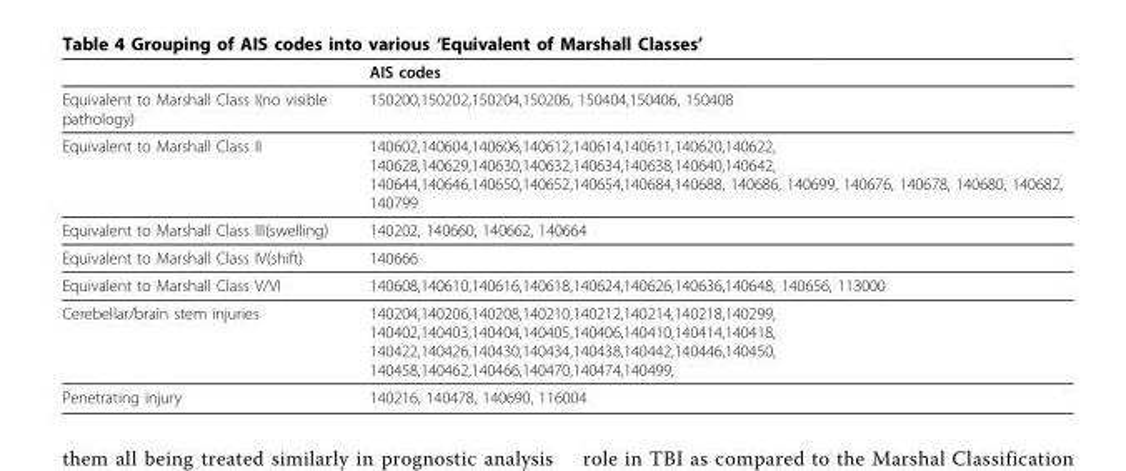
<table><thead><tr><td></td><td>AIS codes</td></tr></thead><tbody><tr><td>Equivalent to Marshall Class I(no visible pathology)</td><td>150200,150202,150204,150206, 150404,150406, 150408</td></tr><tr><td>Equivalent to Marshall Class II</td><td>140602,140604,140606,140612,140614,140611,140620,140622, 140628,140629,140630,140632,140634,140638,140640,140642, 140644,140646,140650,140652,140654,140684,140688, 140686, 140699, 140676, 140678, 140680, 140682, 140799</td></tr><tr><td>Equivalent to Marshall Class III(swelling)</td><td>140202, 140660, 140662, 140664</td></tr><tr><td>Equivalent to Marshall Class IV(shift)</td><td>140666</td></tr><tr><td>Equivalent to Marshall Class V/VI</td><td>140608,140610,140616,140618,140624,140626,140636,140648, 140656, 113000</td></tr><tr><td>Cerebellar/brain stem injuries</td><td>140204,140206,140208,140210,140212,140214,140218,140299, 140402,140403,140404,140405,140406,140410,140414,140418, 140422,140426,140430,140434,140438,140442,140446,140450, 140458,140462,140466,140470,140474,140499,</td></tr><tr><td>Penetrating injury</td><td>140216, 140478, 140690, 116004</td></tr></tbody></table>